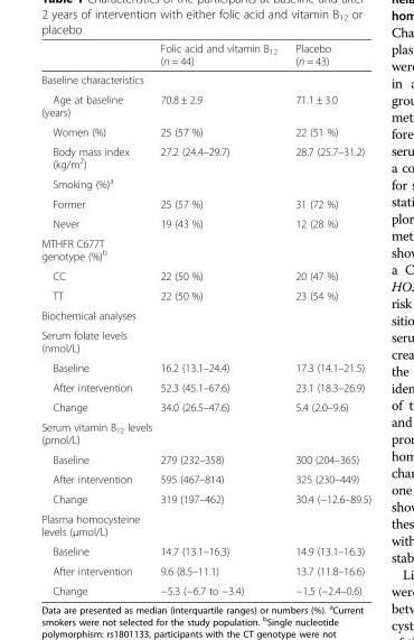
<table><thead><tr><td></td><td>Folic acid and vitamin B<sub>12</sub> (n = 44)</td><td>Placebo (n = 43)</td></tr></thead><tbody><tr><td colspan="3">Baseline characteristics</td></tr><tr><td>Age at baseline (years)</td><td>70.8 ± 2.9</td><td>71.1 ± 3.0</td></tr><tr><td>Women (%)</td><td>25 (57 %)</td><td>22 (51 %)</td></tr><tr><td>Body mass index (kg/m<sup>2</sup>)</td><td>27.2 (24.4–29.7)</td><td>28.7 (25.7–31.2)</td></tr><tr><td colspan="3">Smoking (%)<sup>a</sup></td></tr><tr><td>Former</td><td>25 (57 %)</td><td>31 (72 %)</td></tr><tr><td>Never</td><td>19 (43 %)</td><td>12 (28 %)</td></tr><tr><td colspan="3">MTHFR C677T genotype (%)<sup>b</sup></td></tr><tr><td>CC</td><td>22 (50 %)</td><td>20 (47 %)</td></tr><tr><td>TT</td><td>22 (50 %)</td><td>23 (54 %)</td></tr><tr><td colspan="3">Biochemical analyses</td></tr><tr><td colspan="3">Serum folate levels (nmol/L)</td></tr><tr><td>Baseline</td><td>16.2 (13.1–24.4)</td><td>17.3 (14.1–21.5)</td></tr><tr><td>After intervention</td><td>52.3 (45.1–67.6)</td><td>23.1 (18.3–26.9)</td></tr><tr><td>Change</td><td>34.0 (26.5–47.6)</td><td>5.4 (2.0–9.6)</td></tr><tr><td colspan="3">Serum vitamin B<sub>12</sub> levels (pmol/L)</td></tr><tr><td>Baseline</td><td>279 (232–358)</td><td>300 (204–365)</td></tr><tr><td>After intervention</td><td>595 (467–814)</td><td>325 (230–449)</td></tr><tr><td>Change</td><td>319 (197–462)</td><td>30.4 (−12.6–89.5)</td></tr><tr><td colspan="3">Plasma homocysteine levels (μmol/L)</td></tr><tr><td>Baseline</td><td>14.7 (13.1–16.3)</td><td>14.9 (13.1–16.3)</td></tr><tr><td>After intervention</td><td>9.6 (8.5–11.1)</td><td>13.7 (11.8–16.6)</td></tr><tr><td>Change</td><td>−5.3 (−6.7 to −3.4)</td><td>−1.5 (−2.4–0.6)</td></tr></tbody></table>